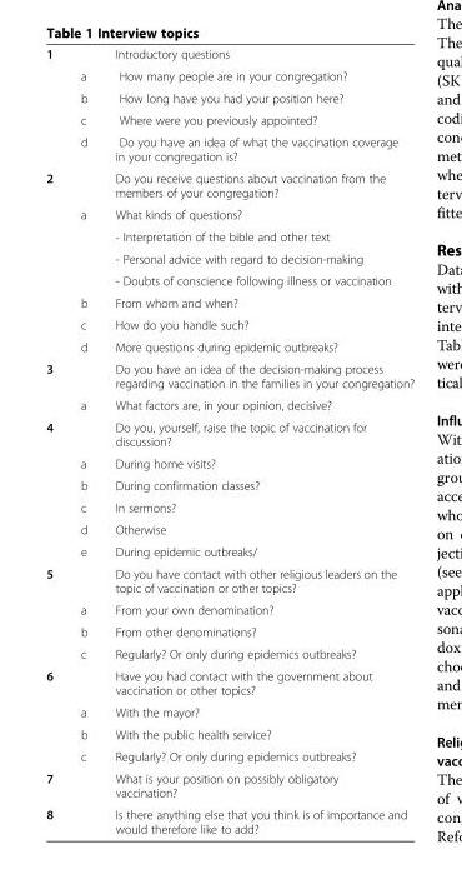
<table><tbody><tr><td rowspan="5">1</td><td></td><td>Introductory questions</td></tr><tr><td>a</td><td>How many people are in your congregation?</td></tr><tr><td>b</td><td>How long have you had your position here?</td></tr><tr><td>c</td><td>Where were you previously appointed?</td></tr><tr><td>d</td><td>Do you have an idea of what the vaccination coverage in your congregation is?</td></tr><tr><td rowspan="8">2</td><td></td><td>Do you receive questions about vaccination from the members of your congregation?</td></tr><tr><td>a</td><td>What kinds of questions?</td></tr><tr><td></td><td>- Interpretation of the bible and other text</td></tr><tr><td></td><td>- Personal advice with regard to decision-making</td></tr><tr><td></td><td>- Doubts of conscience following illness or vaccination</td></tr><tr><td>b</td><td>From whom and when?</td></tr><tr><td>c</td><td>How do you handle such?</td></tr><tr><td>d</td><td>More questions during epidemic outbreaks?</td></tr><tr><td rowspan="2">3</td><td></td><td>Do you have an idea of the decision-making process regarding vaccination in the families in your congregation?</td></tr><tr><td>a</td><td>What factors are, in your opinion, decisive?</td></tr><tr><td rowspan="6">4</td><td></td><td>Do you, yourself, raise the topic of vaccination for discussion?</td></tr><tr><td>a</td><td>During home visits?</td></tr><tr><td>b</td><td>During confirmation classes?</td></tr><tr><td>c</td><td>In sermons?</td></tr><tr><td>d</td><td>Otherwise</td></tr><tr><td>e</td><td>During epidemic outbreaks/</td></tr><tr><td rowspan="4">5</td><td></td><td>Do you have contact with other religious leaders on the topic of vaccination or other topics?</td></tr><tr><td>a</td><td>From your own denomination?</td></tr><tr><td>b</td><td>From other denominations?</td></tr><tr><td>c</td><td>Regularly? Or only during epidemics outbreaks?</td></tr><tr><td rowspan="4">6</td><td></td><td>Have you had contact with the government about vaccination or other topics?</td></tr><tr><td>a</td><td>With the mayor?</td></tr><tr><td>b</td><td>With the public health service?</td></tr><tr><td>c</td><td>Regularly? Or only during epidemics outbreaks?</td></tr><tr><td>7</td><td></td><td>What is your position on possibly obligatory vaccination?</td></tr><tr><td>8</td><td></td><td>Is there anything else that you think is of importance and would therefore like to add?</td></tr></tbody></table>